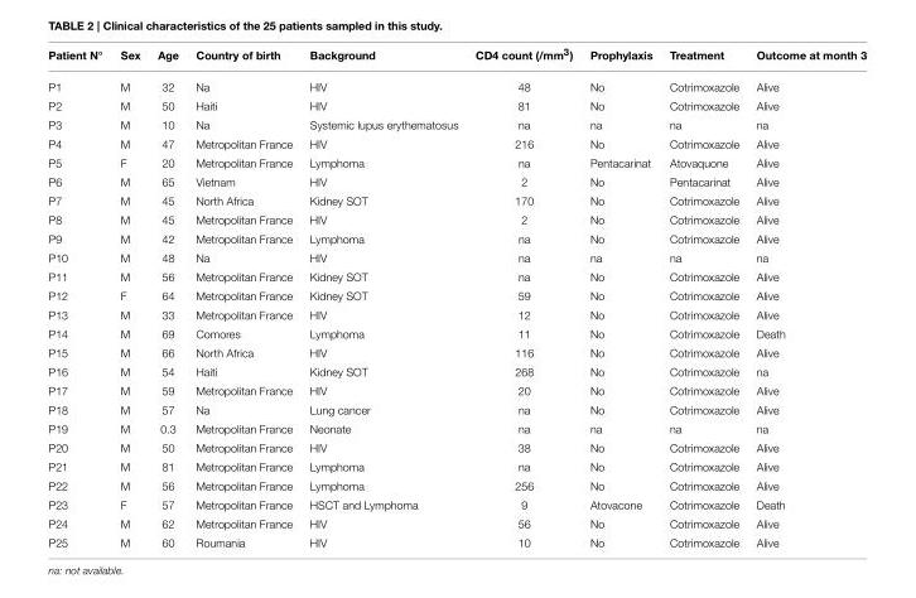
<table><thead><tr><td>Patient N◦</td><td>Sex</td><td>Age</td><td>Country of birth</td><td>Background</td><td>CD4 count (/mm<sup>3</sup>)</td><td>Prophylaxis</td><td>Treatment</td><td>Outcome at month 3</td></tr></thead><tbody><tr><td>P1</td><td>M</td><td>32</td><td>Na</td><td>HIV</td><td>48</td><td>No</td><td>Cotrimoxazole</td><td>Alive</td></tr><tr><td>P2</td><td>M</td><td>50</td><td>Haiti</td><td>HIV</td><td>81</td><td>No</td><td>Cotrimoxazole</td><td>Alive</td></tr><tr><td>P3</td><td>M</td><td>10</td><td>Na</td><td>Systemic lupus erythematosus</td><td>na</td><td>na</td><td>na</td><td>na</td></tr><tr><td>P4</td><td>M</td><td>47</td><td>Metropolitan France</td><td>HIV</td><td>216</td><td>No</td><td>Cotrimoxazole</td><td>Alive</td></tr><tr><td>P5</td><td>F</td><td>20</td><td>Metropolitan France</td><td>Lymphoma</td><td>na</td><td>Pentacarinat</td><td>Atovaquone</td><td>Alive</td></tr><tr><td>P6</td><td>M</td><td>65</td><td>Vietnam</td><td>HIV</td><td>2</td><td>No</td><td>Pentacarinat</td><td>Alive</td></tr><tr><td>P7</td><td>M</td><td>45</td><td>North Africa</td><td>Kidney SOT</td><td>170</td><td>No</td><td>Cotrimoxazole</td><td>Alive</td></tr><tr><td>P8</td><td>M</td><td>45</td><td>Metropolitan France</td><td>HIV</td><td>2</td><td>No</td><td>Cotrimoxazole</td><td>Alive</td></tr><tr><td>P9</td><td>M</td><td>42</td><td>Metropolitan France</td><td>Lymphoma</td><td>na</td><td>No</td><td>Cotrimoxazole</td><td>Alive</td></tr><tr><td>P10</td><td>M</td><td>48</td><td>Na</td><td>HIV</td><td>na</td><td>na</td><td>na</td><td>na</td></tr><tr><td>P11</td><td>M</td><td>56</td><td>Metropolitan France</td><td>Kidney SOT</td><td>na</td><td>No</td><td>Cotrimoxazole</td><td>Alive</td></tr><tr><td>P12</td><td>F</td><td>64</td><td>Metropolitan France</td><td>Kidney SOT</td><td>59</td><td>No</td><td>Cotrimoxazole</td><td>Alive</td></tr><tr><td>P13</td><td>M</td><td>33</td><td>Metropolitan France</td><td>HIV</td><td>12</td><td>No</td><td>Cotrimoxazole</td><td>Alive</td></tr><tr><td>P14</td><td>M</td><td>69</td><td>Comores</td><td>Lymphoma</td><td>11</td><td>No</td><td>Cotrimoxazole</td><td>Death</td></tr><tr><td>P15</td><td>M</td><td>66</td><td>North Africa</td><td>HIV</td><td>116</td><td>No</td><td>Cotrimoxazole</td><td>Alive</td></tr><tr><td>P16</td><td>M</td><td>54</td><td>Haiti</td><td>Kidney SOT</td><td>268</td><td>No</td><td>Cotrimoxazole</td><td>na</td></tr><tr><td>P17</td><td>M</td><td>59</td><td>Metropolitan France</td><td>HIV</td><td>20</td><td>No</td><td>Cotrimoxazole</td><td>Alive</td></tr><tr><td>P18</td><td>M</td><td>57</td><td>Na</td><td>Lung cancer</td><td>na</td><td>No</td><td>Cotrimoxazole</td><td>Alive</td></tr><tr><td>P19</td><td>M</td><td>0.3</td><td>Metropolitan France</td><td>Neonate</td><td>na</td><td>na</td><td>na</td><td>na</td></tr><tr><td>P20</td><td>M</td><td>50</td><td>Metropolitan France</td><td>HIV</td><td>38</td><td>No</td><td>Cotrimoxazole</td><td>Alive</td></tr><tr><td>P21</td><td>M</td><td>81</td><td>Metropolitan France</td><td>Lymphoma</td><td>na</td><td>No</td><td>Cotrimoxazole</td><td>Alive</td></tr><tr><td>P22</td><td>M</td><td>56</td><td>Metropolitan France</td><td>Lymphoma</td><td>256</td><td>No</td><td>Cotrimoxazole</td><td>Alive</td></tr><tr><td>P23</td><td>F</td><td>57</td><td>Metropolitan France</td><td>HSCT and Lymphoma</td><td>9</td><td>Atovacone</td><td>Cotrimoxazole</td><td>Death</td></tr><tr><td>P24</td><td>M</td><td>62</td><td>Metropolitan France</td><td>HIV</td><td>56</td><td>No</td><td>Cotrimoxazole</td><td>Alive</td></tr><tr><td>P25</td><td>M</td><td>60</td><td>Roumania</td><td>HIV</td><td>10</td><td>No</td><td>Cotrimoxazole</td><td>Alive</td></tr></tbody></table>